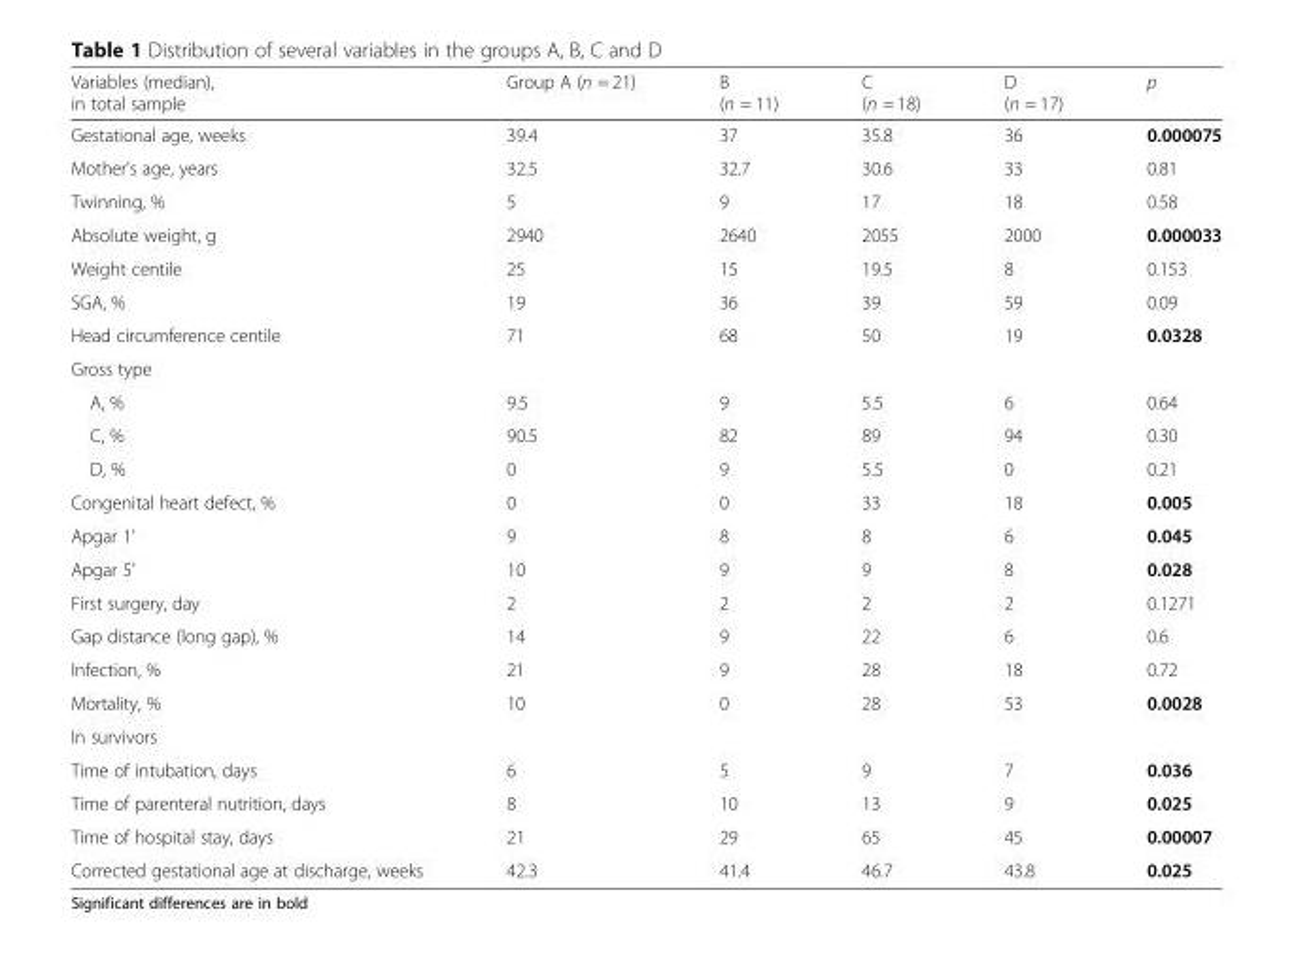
<table><thead><tr><td>Variables (median), in total sample</td><td>Group A (n = 21)</td><td>B (n = 11)</td><td>C (n = 18)</td><td>D (n = 17)</td><td>p</td></tr></thead><tbody><tr><td>Gestational age, weeks</td><td>39.4</td><td>37</td><td>35.8</td><td>36</td><td>0.000075</td></tr><tr><td>Mother’s age, years</td><td>32.5</td><td>32.7</td><td>30.6</td><td>33</td><td>0.81</td></tr><tr><td>Twinning, %</td><td>5</td><td>9</td><td>17</td><td>18</td><td>0.58</td></tr><tr><td>Absolute weight, g</td><td>2940</td><td>2640</td><td>2055</td><td>2000</td><td>0.000033</td></tr><tr><td>Weight centile</td><td>25</td><td>15</td><td>19.5</td><td>8</td><td>0.153</td></tr><tr><td>SGA, %</td><td>19</td><td>36</td><td>39</td><td>59</td><td>0.09</td></tr><tr><td>Head circumference centile</td><td>71</td><td>68</td><td>50</td><td>19</td><td>0.0328</td></tr><tr><td colspan="6">Gross type</td></tr><tr><td>A, %</td><td>9.5</td><td>9</td><td>5.5</td><td>6</td><td>0.64</td></tr><tr><td>C, %</td><td>90.5</td><td>82</td><td>89</td><td>94</td><td>0.30</td></tr><tr><td>D, %</td><td>0</td><td>9</td><td>5.5</td><td>0</td><td>0.21</td></tr><tr><td>Congenital heart defect, %</td><td>0</td><td>0</td><td>33</td><td>18</td><td>0.005</td></tr><tr><td>Apgar 1’</td><td>9</td><td>8</td><td>8</td><td>6</td><td>0.045</td></tr><tr><td>Apgar 5’</td><td>10</td><td>9</td><td>9</td><td>8</td><td>0.028</td></tr><tr><td>First surgery, day</td><td>2</td><td>2</td><td>2</td><td>2</td><td>0.1271</td></tr><tr><td>Gap distance (long gap), %</td><td>14</td><td>9</td><td>22</td><td>6</td><td>0.6</td></tr><tr><td>Infection, %</td><td>21</td><td>9</td><td>28</td><td>18</td><td>0.72</td></tr><tr><td>Mortality, %</td><td>10</td><td>0</td><td>28</td><td>53</td><td>0.0028</td></tr><tr><td colspan="6">In survivors</td></tr><tr><td>Time of intubation, days</td><td>6</td><td>5</td><td>9</td><td>7</td><td>0.036</td></tr><tr><td>Time of parenteral nutrition, days</td><td>8</td><td>10</td><td>13</td><td>9</td><td>0.025</td></tr><tr><td>Time of hospital stay, days</td><td>21</td><td>29</td><td>65</td><td>45</td><td>0.00007</td></tr><tr><td>Corrected gestational age at discharge, weeks</td><td>42.3</td><td>41.4</td><td>46.7</td><td>43.8</td><td>0.025</td></tr></tbody></table>